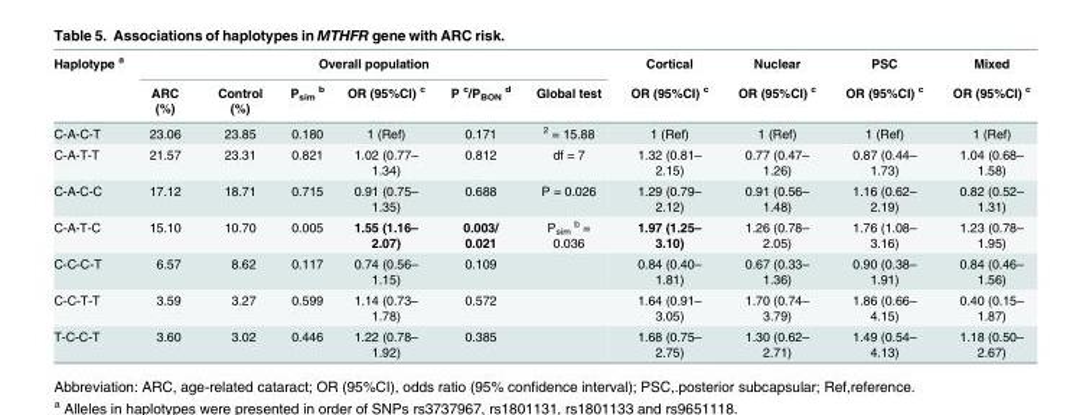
<table><thead><tr><td rowspan="2">Haplotype <sup>a</sup></td><td colspan="6">Overall population</td><td rowspan="2">Cortical OR (95%CI) <sup>c</sup></td><td rowspan="2">Nuclear OR (95%CI) <sup>c</sup></td><td rowspan="2">PSC OR (95%CI) <sup>c</sup></td><td rowspan="2">Mixed OR (95%CI) <sup>c</sup></td></tr><tr><td>ARC (%)</td><td>Control (%)</td><td>P<sub>sim</sub> <sup>b</sup></td><td>OR (95%CI) <sup>c</sup></td><td>P <sup>c</sup>/P<sub>BON</sub> <sup>d</sup></td><td>Global test</td></tr></thead><tbody><tr><td>C-A-C-T</td><td>23.06</td><td>23.85</td><td>0.180</td><td>1 (Ref)</td><td>0.171</td><td><sup>2</sup> = 15.88</td><td>1 (Ref)</td><td>1 (Ref)</td><td>1 (Ref)</td><td>1 (Ref)</td></tr><tr><td>C-A-T-T</td><td>21.57</td><td>23.31</td><td>0.821</td><td>1.02 (0.77– 1.34)</td><td>0.812</td><td>df = 7</td><td>1.32 (0.81– 2.15)</td><td>0.77 (0.47– 1.26)</td><td>0.87 (0.44– 1.73)</td><td>1.04 (0.68– 1.58)</td></tr><tr><td>C-A-C-C</td><td>17.12</td><td>18.71</td><td>0.715</td><td>0.91 (0.75– 1.35)</td><td>0.688</td><td>P = 0.026</td><td>1.29 (0.79– 2.12)</td><td>0.91 (0.56– 1.48)</td><td>1.16 (0.62– 2.19)</td><td>0.82 (0.52– 1.31)</td></tr><tr><td>C-A-T-C</td><td>15.10</td><td>10.70</td><td>0.005</td><td>1.55 (1.16– 2.07)</td><td>0.003/ 0.021</td><td>P<sub>sim</sub> <sup>b</sup> = 0.036</td><td>1.97 (1.25– 3.10)</td><td>1.26 (0.78– 2.05)</td><td>1.76 (1.08– 3.16)</td><td>1.23 (0.78– 1.95)</td></tr><tr><td>C-C-C-T</td><td>6.57</td><td>8.62</td><td>0.117</td><td>0.74 (0.56– 1.15)</td><td>0.109</td><td></td><td>0.84 (0.40– 1.81)</td><td>0.67 (0.33– 1.36)</td><td>0.90 (0.38– 1.91)</td><td>0.84 (0.46– 1.56)</td></tr><tr><td>C-C-T-T</td><td>3.59</td><td>3.27</td><td>0.599</td><td>1.14 (0.73– 1.78)</td><td>0.572</td><td></td><td>1.64 (0.91– 3.05)</td><td>1.70 (0.74– 3.79)</td><td>1.86 (0.66– 4.15)</td><td>0.40 (0.15– 1.87)</td></tr><tr><td>T-C-C-T</td><td>3.60</td><td>3.02</td><td>0.446</td><td>1.22 (0.78– 1.92)</td><td>0.385</td><td></td><td>1.68 (0.75– 2.75)</td><td>1.30 (0.62– 2.71)</td><td>1.49 (0.54– 4.13)</td><td>1.18 (0.50– 2.67)</td></tr></tbody></table>